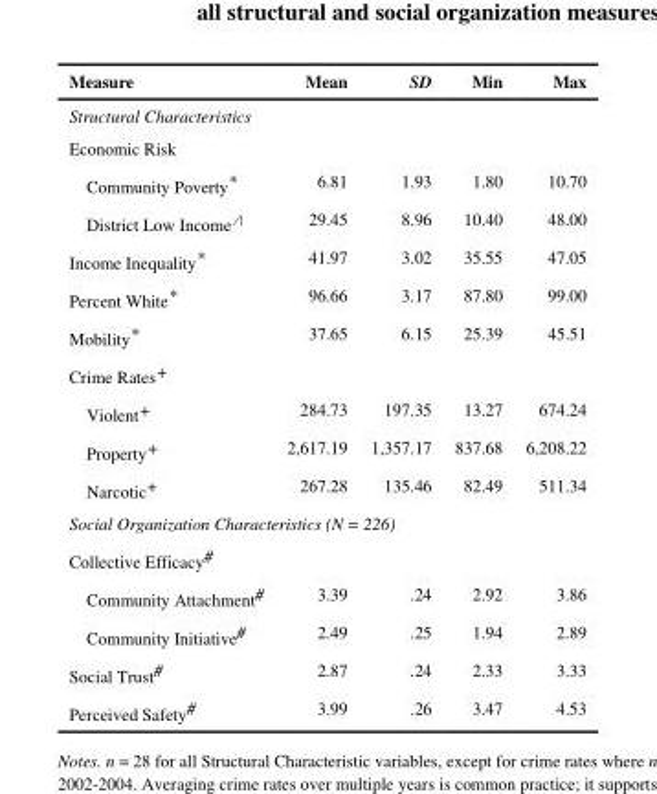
<table><thead><tr><td>Measure</td><td>Mean</td><td>SD</td><td>Min</td><td>Max</td></tr></thead><tbody><tr><td colspan="5">Structural Characteristics</td></tr><tr><td colspan="5">Economic Risk</td></tr><tr><td>Community Poverty*</td><td>6.81</td><td>1.93</td><td>1.80</td><td>10.70</td></tr><tr><td>District Low Income∧</td><td>29.45</td><td>8.96</td><td>10.40</td><td>48.00</td></tr><tr><td>Income Inequality*</td><td>41.97</td><td>3.02</td><td>35.55</td><td>47.05</td></tr><tr><td>Percent White*</td><td>96.66</td><td>3.17</td><td>87.80</td><td>99.00</td></tr><tr><td>Mobility*</td><td>37.65</td><td>6.15</td><td>25.39</td><td>45.51</td></tr><tr><td colspan="5">Crime Rates+</td></tr><tr><td>Violent+</td><td>284.73</td><td>197.35</td><td>13.27</td><td>674.24</td></tr><tr><td>Property+</td><td>2,617.19</td><td>1,357.17</td><td>837.68</td><td>6,208.22</td></tr><tr><td>Narcotic+</td><td>267.28</td><td>135.46</td><td>82.49</td><td>511.34</td></tr><tr><td colspan="5">Social Organization Characteristics (N = 226)</td></tr><tr><td colspan="5">Collective Efficacy#</td></tr><tr><td>Community Attachment#</td><td>3.39</td><td>.24</td><td>2.92</td><td>3.86</td></tr><tr><td>Community Initiative#</td><td>2.49</td><td>.25</td><td>1.94</td><td>2.89</td></tr><tr><td>Social Trust#</td><td>2.87</td><td>.24</td><td>2.33</td><td>3.33</td></tr><tr><td>Perceived Safety#</td><td>3.99</td><td>.26</td><td>3.47</td><td>4.53</td></tr></tbody></table>